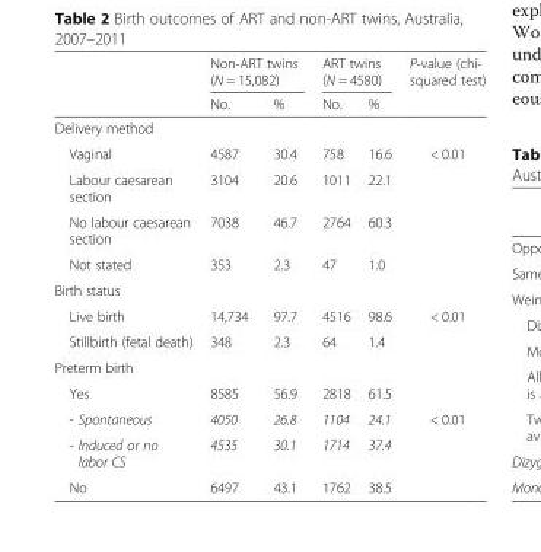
<table><thead><tr><td rowspan="2"></td><td colspan="2">Non-ART twins (N = 15,082)</td><td colspan="2">ART twins (N = 4580)</td><td rowspan="2">P-value (chi- squared test)</td></tr><tr><td>No.</td><td>%</td><td>No.</td><td>%</td></tr></thead><tbody><tr><td colspan="6">Delivery method</td></tr><tr><td>Vaginal</td><td>4587</td><td>30.4</td><td>758</td><td>16.6</td><td rowspan="3">&lt; 0.01</td></tr><tr><td>Labour caesarean section</td><td>3104</td><td>20.6</td><td>1011</td><td>22.1</td></tr><tr><td>No labour caesarean section</td><td>7038</td><td>46.7</td><td>2764</td><td>60.3</td></tr><tr><td>Not stated</td><td>353</td><td>2.3</td><td>47</td><td>1.0</td><td></td></tr><tr><td colspan="6">Birth status</td></tr><tr><td>Live birth</td><td>14,734</td><td>97.7</td><td>4516</td><td>98.6</td><td rowspan="2">&lt; 0.01</td></tr><tr><td>Stillbirth (fetal death)</td><td>348</td><td>2.3</td><td>64</td><td>1.4</td></tr><tr><td colspan="6">Preterm birth</td></tr><tr><td>Yes</td><td>8585</td><td>56.9</td><td>2818</td><td>61.5</td><td></td></tr><tr><td>- Spontaneous</td><td>4050</td><td>26.8</td><td>1104</td><td>24.1</td><td rowspan="3">&lt; 0.01</td></tr><tr><td>- Induced or no labor CS</td><td>4535</td><td>30.1</td><td>1714</td><td>37.4</td></tr><tr><td>No</td><td>6497</td><td>43.1</td><td>1762</td><td>38.5</td></tr></tbody></table>